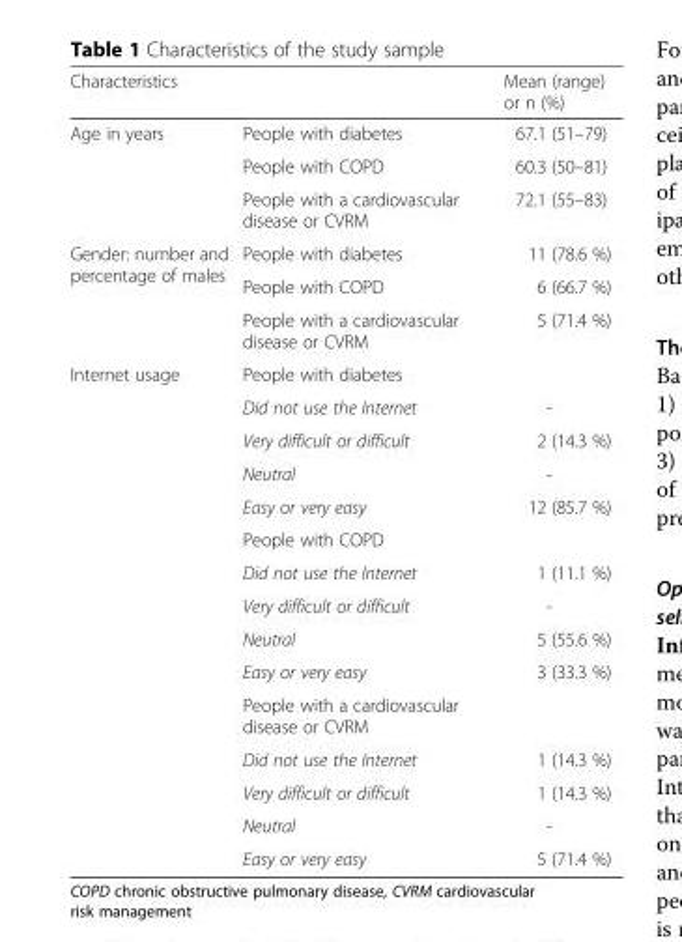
<table><thead><tr><td>Characteristics</td><td></td><td>Mean (range) or n (%)</td></tr></thead><tbody><tr><td rowspan="3">Age in years</td><td>People with diabetes</td><td>67.1 (51–79)</td></tr><tr><td>People with COPD</td><td>60.3 (50–81)</td></tr><tr><td>People with a cardiovascular disease or CVRM</td><td>72.1 (55–83)</td></tr><tr><td rowspan="3">Gender: number and percentage of males</td><td>People with diabetes</td><td>11 (78.6 %)</td></tr><tr><td>People with COPD</td><td>6 (66.7 %)</td></tr><tr><td>People with a cardiovascular disease or CVRM</td><td>5 (71.4 %)</td></tr><tr><td rowspan="15">Internet usage</td><td>People with diabetes</td><td></td></tr><tr><td>Did not use the Internet</td><td>-</td></tr><tr><td>Very difficult or difficult</td><td>2 (14.3 %)</td></tr><tr><td>Neutral</td><td>-</td></tr><tr><td>Easy or very easy</td><td>12 (85.7 %)</td></tr><tr><td>People with COPD</td><td></td></tr><tr><td>Did not use the Internet</td><td>1 (11.1 %)</td></tr><tr><td>Very difficult or difficult</td><td>-</td></tr><tr><td>Neutral</td><td>5 (55.6 %)</td></tr><tr><td>Easy or very easy</td><td>3 (33.3 %)</td></tr><tr><td>People with a cardiovascular disease or CVRM</td><td></td></tr><tr><td>Did not use the Internet</td><td>1 (14.3 %)</td></tr><tr><td>Very difficult or difficult</td><td>1 (14.3 %)</td></tr><tr><td>Neutral</td><td>-</td></tr><tr><td>Easy or very easy</td><td>5 (71.4 %)</td></tr></tbody></table>